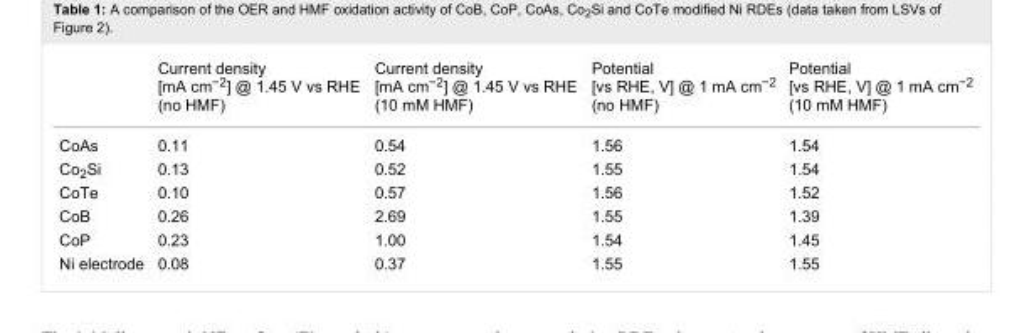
<table><thead><tr><td></td><td>Current density [mA cm<sup>−2</sup>] @ 1.45 V vs RHE (no HMF)</td><td>Current density [mA cm<sup>−2</sup>] @ 1.45 V vs RHE (10 mM HMF)</td><td>Potential [vs RHE, V] @ 1 mA cm<sup>−2</sup> (no HMF)</td><td>Potential [vs RHE, V] @ 1 mA cm<sup>−2</sup> (10 mM HMF)</td></tr></thead><tbody><tr><td>CoAs</td><td>0.11</td><td>0.54</td><td>1.56</td><td>1.54</td></tr><tr><td>Co<sub>2</sub>Si</td><td>0.13</td><td>0.52</td><td>1.55</td><td>1.54</td></tr><tr><td>CoTe</td><td>0.10</td><td>0.57</td><td>1.56</td><td>1.52</td></tr><tr><td>CoB</td><td>0.26</td><td>2.69</td><td>1.55</td><td>1.39</td></tr><tr><td>CoP</td><td>0.23</td><td>1.00</td><td>1.54</td><td>1.45</td></tr><tr><td>Ni electrode</td><td>0.08</td><td>0.37</td><td>1.55</td><td>1.55</td></tr></tbody></table>